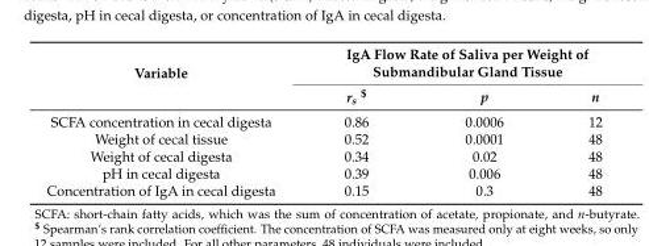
<table><thead><tr><td rowspan="2">Variable</td><td colspan="3">IgA Flow Rate of Saliva per Weight of Submandibular Gland Tissue</td></tr><tr><td>r<sub>s</sub> <sup>$</sup></td><td>p</td><td>n</td></tr></thead><tbody><tr><td>SCFA concentration in cecal digesta</td><td>0.86</td><td>0.0006</td><td>12</td></tr><tr><td>Weight of cecal tissue</td><td>0.52</td><td>0.0001</td><td>48</td></tr><tr><td>Weight of cecal digesta</td><td>0.34</td><td>0.02</td><td>48</td></tr><tr><td>pH in cecal digesta</td><td>0.39</td><td>0.006</td><td>48</td></tr><tr><td>Concentration of IgA in cecal digesta</td><td>0.15</td><td>0.3</td><td>48</td></tr></tbody></table>